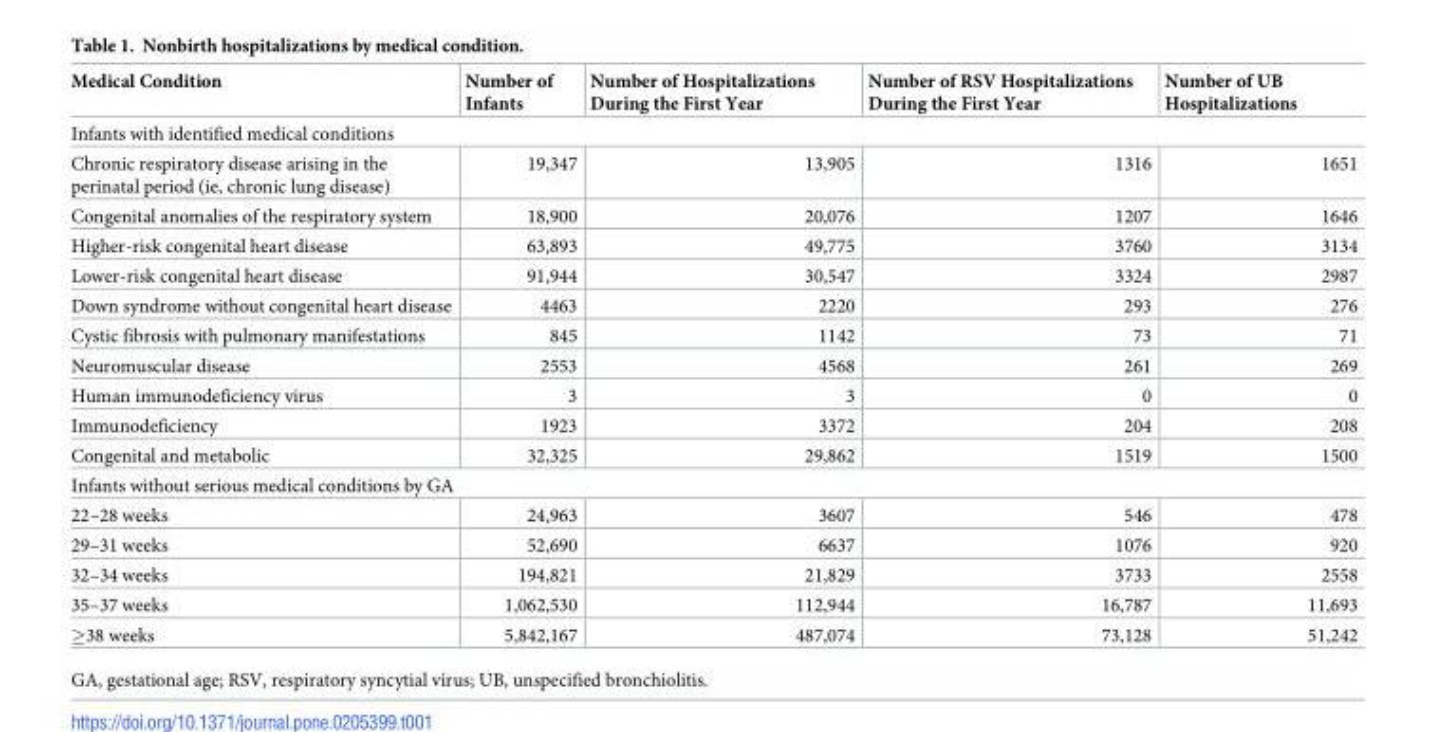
<table><thead><tr><td>Medical Condition</td><td>Number of Infants</td><td>Number of Hospitalizations During the First Year</td><td>Number of RSV Hospitalizations During the First Year</td><td>Number of UB Hospitalizations</td></tr></thead><tbody><tr><td colspan="5">Infants with identified medical conditions</td></tr><tr><td>Chronic respiratory disease arising in the perinatal period (ie, chronic lung disease)</td><td>19,347</td><td>13,905</td><td>1316</td><td>1651</td></tr><tr><td>Congenital anomalies of the respiratory system</td><td>18,900</td><td>20,076</td><td>1207</td><td>1646</td></tr><tr><td>Higher-risk congenital heart disease</td><td>63,893</td><td>49,775</td><td>3760</td><td>3134</td></tr><tr><td>Lower-risk congenital heart disease</td><td>91,944</td><td>30,547</td><td>3324</td><td>2987</td></tr><tr><td>Down syndrome without congenital heart disease</td><td>4463</td><td>2220</td><td>293</td><td>276</td></tr><tr><td>Cystic fibrosis with pulmonary manifestations</td><td>845</td><td>1142</td><td>73</td><td>71</td></tr><tr><td>Neuromuscular disease</td><td>2553</td><td>4568</td><td>261</td><td>269</td></tr><tr><td>Human immunodeficiency virus</td><td>3</td><td>3</td><td>0</td><td>0</td></tr><tr><td>Immunodeficiency</td><td>1923</td><td>3372</td><td>204</td><td>208</td></tr><tr><td>Congenital and metabolic</td><td>32,325</td><td>29,862</td><td>1519</td><td>1500</td></tr><tr><td colspan="5">Infants without serious medical conditions by GA</td></tr><tr><td>22–28 weeks</td><td>24,963</td><td>3607</td><td>546</td><td>478</td></tr><tr><td>29–31 weeks</td><td>52,690</td><td>6637</td><td>1076</td><td>920</td></tr><tr><td>32–34 weeks</td><td>194,821</td><td>21,829</td><td>3733</td><td>2558</td></tr><tr><td>35–37 weeks</td><td>1,062,530</td><td>112,944</td><td>16,787</td><td>11,693</td></tr><tr><td>≥38 weeks</td><td>5,842,167</td><td>487,074</td><td>73,128</td><td>51,242</td></tr></tbody></table>